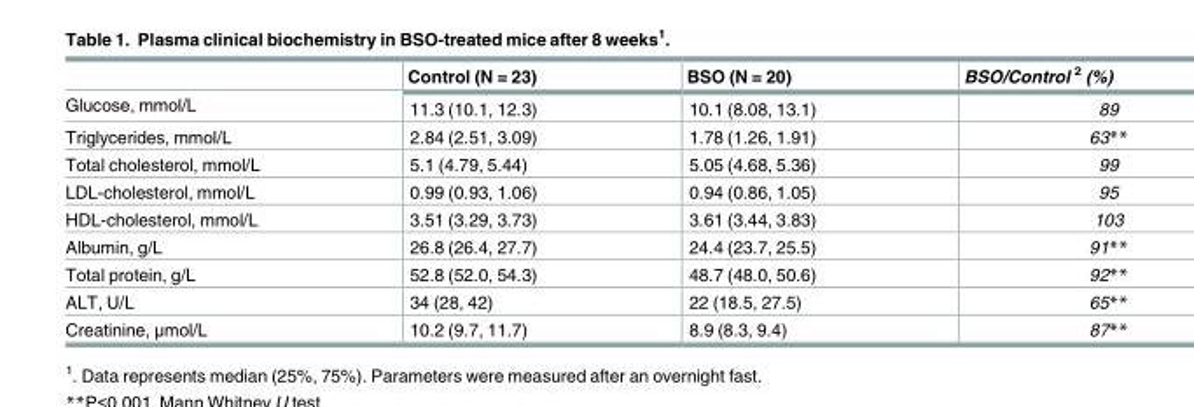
<table><thead><tr><td></td><td>Control (N = 23)</td><td>BSO (N = 20)</td><td>BSO/Control <sup>2</sup> (%)</td></tr></thead><tbody><tr><td>Glucose, mmol/L</td><td>11.3 (10.1, 12.3)</td><td>10.1 (8.08, 13.1)</td><td>89</td></tr><tr><td>Triglycerides, mmol/L</td><td>2.84 (2.51, 3.09)</td><td>1.78 (1.26, 1.91)</td><td>63**</td></tr><tr><td>Total cholesterol, mmol/L</td><td>5.1 (4.79, 5.44)</td><td>5.05 (4.68, 5.36)</td><td>99</td></tr><tr><td>LDL-cholesterol, mmol/L</td><td>0.99 (0.93, 1.06)</td><td>0.94 (0.86, 1.05)</td><td>95</td></tr><tr><td>HDL-cholesterol, mmol/L</td><td>3.51 (3.29, 3.73)</td><td>3.61 (3.44, 3.83)</td><td>103</td></tr><tr><td>Albumin, g/L</td><td>26.8 (26.4, 27.7)</td><td>24.4 (23.7, 25.5)</td><td>91**</td></tr><tr><td>Total protein, g/L</td><td>52.8 (52.0, 54.3)</td><td>48.7 (48.0, 50.6)</td><td>92**</td></tr><tr><td>ALT, U/L</td><td>34 (28, 42)</td><td>22 (18.5, 27.5)</td><td>65**</td></tr><tr><td>Creatinine, μmol/L</td><td>10.2 (9.7, 11.7)</td><td>8.9 (8.3, 9.4)</td><td>87**</td></tr></tbody></table>